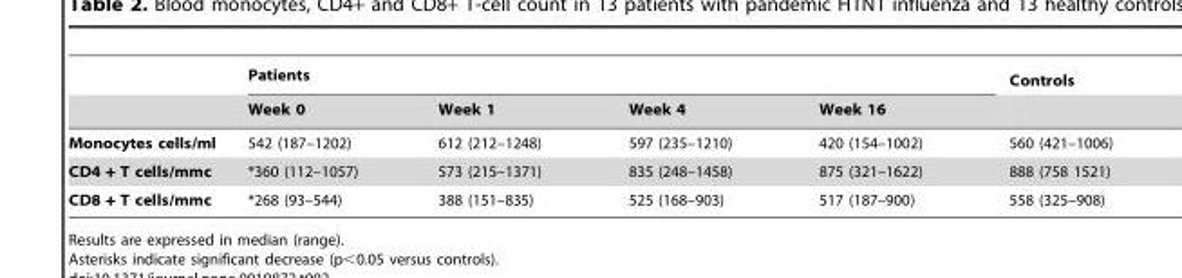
<table><thead><tr><td rowspan="2"></td><td colspan="4">Patients</td><td rowspan="2">Controls</td></tr><tr><td>Week 0</td><td>Week 1</td><td>Week 4</td><td>Week 16</td></tr></thead><tbody><tr><td>Monocytes cells/ml</td><td>542 (187–1202)</td><td>612 (212–1248)</td><td>597 (235–1210)</td><td>420 (154–1002)</td><td>560 (421–1006)</td></tr><tr><td>CD4 + T cells/mmc</td><td>*360 (112–1057)</td><td>573 (215–1371)</td><td>835 (248–1458)</td><td>875 (321–1622)</td><td>888 (758 1521)</td></tr><tr><td>CD8 + T cells/mmc</td><td>*268 (93–544)</td><td>388 (151–835)</td><td>525 (168–903)</td><td>517 (187–900)</td><td>558 (325–908)</td></tr></tbody></table>